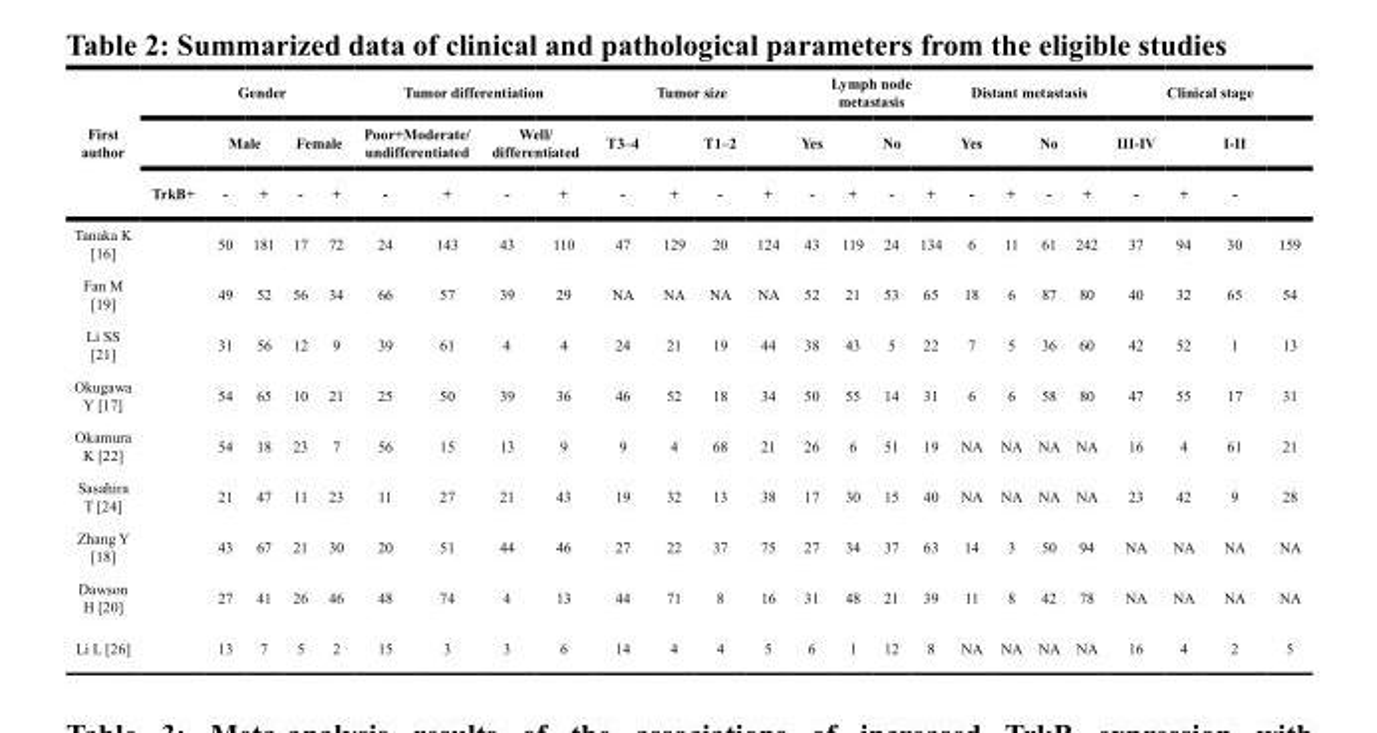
<table><thead><tr><td rowspan="3">First author</td><td rowspan="3">TrkB+</td><td colspan="4">Gender</td><td colspan="4">Tumor differentiation</td><td colspan="4">Tumor size</td><td colspan="4">Lymph node metastasis</td><td colspan="4">Distant metastasis</td><td colspan="4">Clinical stage</td></tr><tr><td colspan="2">Male</td><td colspan="2">Female</td><td colspan="2">Poor+Moderate/ undifferentiated</td><td colspan="2">Well/ differentiated</td><td colspan="2">T3–4</td><td colspan="2">T1–2</td><td colspan="2">Yes</td><td colspan="2">No</td><td colspan="2">Yes</td><td colspan="2">No</td><td colspan="2">III-IV</td><td colspan="2">I-II</td></tr><tr><td>-</td><td>+</td><td>-</td><td>+</td><td>-</td><td>+</td><td>-</td><td>+</td><td>-</td><td>+</td><td>-</td><td>+</td><td>-</td><td>+</td><td>-</td><td>+</td><td>-</td><td>+</td><td>-</td><td>+</td><td>-</td><td>+</td><td>-</td><td></td></tr></thead><tbody><tr><td>Tanaka K [16]</td><td></td><td>50</td><td>181</td><td>17</td><td>72</td><td>24</td><td>143</td><td>43</td><td>110</td><td>47</td><td>129</td><td>20</td><td>124</td><td>43</td><td>119</td><td>24</td><td>134</td><td>6</td><td>11</td><td>61</td><td>242</td><td>37</td><td>94</td><td>30</td><td>159</td></tr><tr><td>Fan M [19]</td><td></td><td>49</td><td>52</td><td>56</td><td>34</td><td>66</td><td>57</td><td>39</td><td>29</td><td>NA</td><td>NA</td><td>NA</td><td>NA</td><td>52</td><td>21</td><td>53</td><td>65</td><td>18</td><td>6</td><td>87</td><td>80</td><td>40</td><td>32</td><td>65</td><td>54</td></tr><tr><td>Li SS [21]</td><td></td><td>31</td><td>56</td><td>12</td><td>9</td><td>39</td><td>61</td><td>4</td><td>4</td><td>24</td><td>21</td><td>19</td><td>44</td><td>38</td><td>43</td><td>5</td><td>22</td><td>7</td><td>5</td><td>36</td><td>60</td><td>42</td><td>52</td><td>1</td><td>13</td></tr><tr><td>Okugawa Y [17]</td><td></td><td>54</td><td>65</td><td>10</td><td>21</td><td>25</td><td>50</td><td>39</td><td>36</td><td>46</td><td>52</td><td>18</td><td>34</td><td>50</td><td>55</td><td>14</td><td>31</td><td>6</td><td>6</td><td>58</td><td>80</td><td>47</td><td>55</td><td>17</td><td>31</td></tr><tr><td>Okamura K [22]</td><td></td><td>54</td><td>18</td><td>23</td><td>7</td><td>56</td><td>15</td><td>13</td><td>9</td><td>9</td><td>4</td><td>68</td><td>21</td><td>26</td><td>6</td><td>51</td><td>19</td><td>NA</td><td>NA</td><td>NA</td><td>NA</td><td>16</td><td>4</td><td>61</td><td>21</td></tr><tr><td>Sasahira T [24]</td><td></td><td>21</td><td>47</td><td>11</td><td>23</td><td>11</td><td>27</td><td>21</td><td>43</td><td>19</td><td>32</td><td>13</td><td>38</td><td>17</td><td>30</td><td>15</td><td>40</td><td>NA</td><td>NA</td><td>NA</td><td>NA</td><td>23</td><td>42</td><td>9</td><td>28</td></tr><tr><td>Zhang Y [18]</td><td></td><td>43</td><td>67</td><td>21</td><td>30</td><td>20</td><td>51</td><td>44</td><td>46</td><td>27</td><td>22</td><td>37</td><td>75</td><td>27</td><td>34</td><td>37</td><td>63</td><td>14</td><td>3</td><td>50</td><td>94</td><td>NA</td><td>NA</td><td>NA</td><td>NA</td></tr><tr><td>Dawson H [20]</td><td></td><td>27</td><td>41</td><td>26</td><td>46</td><td>48</td><td>74</td><td>4</td><td>13</td><td>44</td><td>71</td><td>8</td><td>16</td><td>31</td><td>48</td><td>21</td><td>39</td><td>11</td><td>8</td><td>42</td><td>78</td><td>NA</td><td>NA</td><td>NA</td><td>NA</td></tr><tr><td>Li L [26]</td><td></td><td>13</td><td>7</td><td>5</td><td>2</td><td>15</td><td>3</td><td>3</td><td>6</td><td>14</td><td>4</td><td>4</td><td>5</td><td>6</td><td>1</td><td>12</td><td>8</td><td>NA</td><td>NA</td><td>NA</td><td>NA</td><td>16</td><td>4</td><td>2</td><td>5</td></tr></tbody></table>